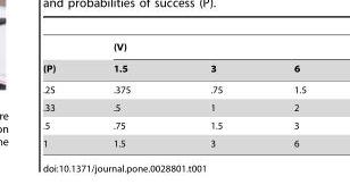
<table><thead><tr><td rowspan="2">(P)</td><td colspan="3">(V)</td></tr><tr><td>1.5</td><td>3</td><td>6</td></tr></thead><tbody><tr><td>.25</td><td>.375</td><td>.75</td><td>1.5</td></tr><tr><td>.33</td><td>.5</td><td>1</td><td>2</td></tr><tr><td>.5</td><td>.75</td><td>1.5</td><td>3</td></tr><tr><td>1</td><td>1.5</td><td>3</td><td>6</td></tr></tbody></table>